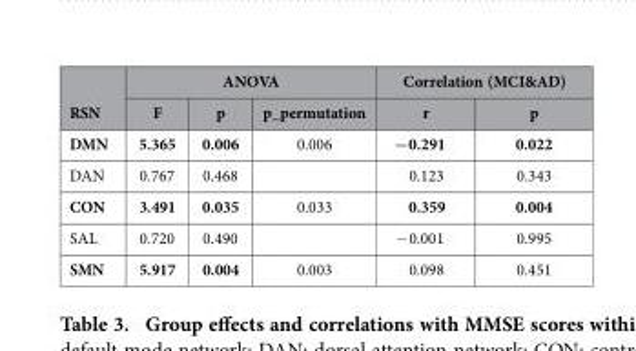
<table><thead><tr><td rowspan="2">RSN</td><td colspan="3">ANOVA</td><td colspan="2">Correlation (MCI&amp;AD)</td></tr><tr><td>F</td><td>p</td><td>p_permutation</td><td>r</td><td>p</td></tr></thead><tbody><tr><td>DMN</td><td>5.365</td><td>0.006</td><td>0.006</td><td>−0.291</td><td>0.022</td></tr><tr><td>DAN</td><td>0.767</td><td>0.468</td><td></td><td>0.123</td><td>0.343</td></tr><tr><td>CON</td><td>3.491</td><td>0.035</td><td>0.033</td><td>0.359</td><td>0.004</td></tr><tr><td>SAL</td><td>0.720</td><td>0.490</td><td></td><td>− 0.001</td><td>0.995</td></tr><tr><td>SMN</td><td>5.917</td><td>0.004</td><td>0.003</td><td>0.098</td><td>0.451</td></tr></tbody></table>